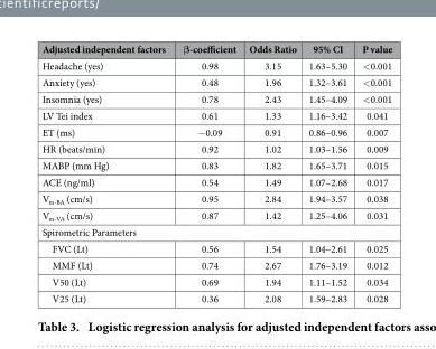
<table><thead><tr><td>Adjusted independent factors</td><td>β-coefficient</td><td>Odds Ratio</td><td>95% CI</td><td>P value</td></tr></thead><tbody><tr><td>Headache (yes)</td><td>0.98</td><td>3.15</td><td>1.63–5.30</td><td>&lt; 0.001</td></tr><tr><td>Anxiety (yes)</td><td>0.48</td><td>1.96</td><td>1.32–3.61</td><td>&lt; 0.001</td></tr><tr><td>Insomnia (yes)</td><td>0.78</td><td>2.43</td><td>1.45–4.09</td><td>&lt; 0.001</td></tr><tr><td>LV Tei index</td><td>0.61</td><td>1.33</td><td>1.16–3.42</td><td>0.041</td></tr><tr><td>ET (ms)</td><td>− 0.09</td><td>0.91</td><td>0.86–0.96</td><td>0.007</td></tr><tr><td>HR (beats/min)</td><td>0.92</td><td>1.02</td><td>1.03–1.56</td><td>0.009</td></tr><tr><td>MABP (mm Hg)</td><td>0.83</td><td>1.82</td><td>1.65–3.71</td><td>0.015</td></tr><tr><td>ACE (ng/ml)</td><td>0.54</td><td>1.49</td><td>1.07–2.68</td><td>0.017</td></tr><tr><td>V<sub>m-BA</sub> (cm/s)</td><td>0.95</td><td>2.84</td><td>1.94–3.57</td><td>0.038</td></tr><tr><td>V<sub>m-VA</sub> (cm/s)</td><td>0.87</td><td>1.42</td><td>1.25–4.06</td><td>0.031</td></tr><tr><td colspan="5">Spirometric Parameters</td></tr><tr><td>FVC (Lt)</td><td>0.56</td><td>1.54</td><td>1.04–2.61</td><td>0.025</td></tr><tr><td>MMF (Lt)</td><td>0.74</td><td>2.67</td><td>1.76–3.19</td><td>0.012</td></tr><tr><td>V50 (Lt)</td><td>0.69</td><td>1.94</td><td>1.11–1.52</td><td>0.034</td></tr><tr><td>V25 (Lt)</td><td>0.36</td><td>2.08</td><td>1.59–2.83</td><td>0.028</td></tr></tbody></table>